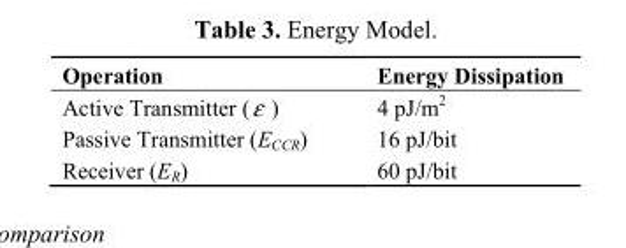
<table><thead><tr><td>Operation</td><td>Energy Dissipation</td></tr></thead><tbody><tr><td>Active Transmitter (ε )</td><td>4 pJ/m<sup>2</sup></td></tr><tr><td>Passive Transmitter (E<sub>CCR</sub>)</td><td>16 pJ/bit</td></tr><tr><td>Receiver (E<sub>R</sub>)</td><td>60 pJ/bit</td></tr></tbody></table>